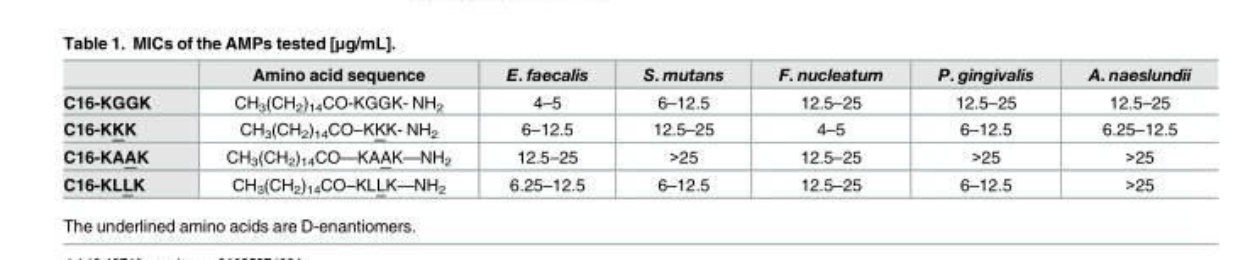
<table><thead><tr><td></td><td>Amino acid sequence</td><td>E. faecalis</td><td>S. mutans</td><td>F. nucleatum</td><td>P. gingivalis</td><td>A. naeslundii</td></tr></thead><tbody><tr><td>C16-KGGK</td><td>CH<sub>3</sub>(CH<sub>2</sub>)<sub>14</sub>CO-KGGK- NH<sub>2</sub></td><td>4–5</td><td>6–12.5</td><td>12.5–25</td><td>12.5–25</td><td>12.5–25</td></tr><tr><td>C16-KKK</td><td>CH<sub>3</sub>(CH<sub>2</sub>)<sub>14</sub>CO–KKK- NH<sub>2</sub></td><td>6–12.5</td><td>12.5–25</td><td>4–5</td><td>6–12.5</td><td>6.25–12.5</td></tr><tr><td>C16-KAAK</td><td>CH<sub>3</sub>(CH<sub>2</sub>)<sub>14</sub>CO—KAAK—NH<sub>2</sub></td><td>12.5–25</td><td>&gt;25</td><td>12.5–25</td><td>&gt;25</td><td>&gt;25</td></tr><tr><td>C16-KLLK</td><td>CH<sub>3</sub>(CH<sub>2</sub>)<sub>14</sub>CO–KLLK—NH<sub>2</sub></td><td>6.25–12.5</td><td>6–12.5</td><td>12.5–25</td><td>6–12.5</td><td>&gt;25</td></tr></tbody></table>